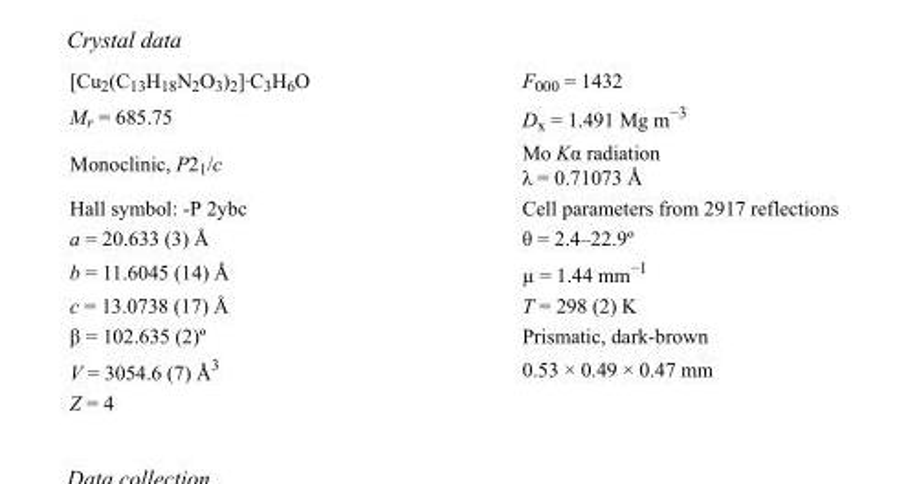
<table><tbody><tr><td>[Cu<sub>2</sub>(C<sub>13</sub>H<sub>18</sub>N<sub>2</sub>O<sub>3</sub>)<sub>2</sub>]·C<sub>3</sub>H<sub>6</sub>O</td><td>F<sub>000</sub> = 1432</td></tr><tr><td>M<sub>r</sub> = 685.75</td><td>D<sub>x</sub> = 1.491 Mg m<sup>−3</sup></td></tr><tr><td>Monoclinic, P2<sub>1</sub>/c</td><td>Mo Kα radiation λ = 0.71073 Å</td></tr><tr><td>Hall symbol: -P 2ybc</td><td>Cell parameters from 2917 reflections</td></tr><tr><td>a = 20.633 (3) Å</td><td>θ = 2.4–22.9º</td></tr><tr><td>b = 11.6045 (14) Å</td><td>µ = 1.44 mm<sup>−1</sup></td></tr><tr><td>c = 13.0738 (17) Å</td><td>T = 298 (2) K</td></tr><tr><td>β = 102.635 (2)º</td><td>Prismatic, dark-brown</td></tr><tr><td>V = 3054.6 (7) Å<sup>3</sup></td><td>0.53 × 0.49 × 0.47 mm</td></tr><tr><td>Z = 4</td><td></td></tr></tbody></table>